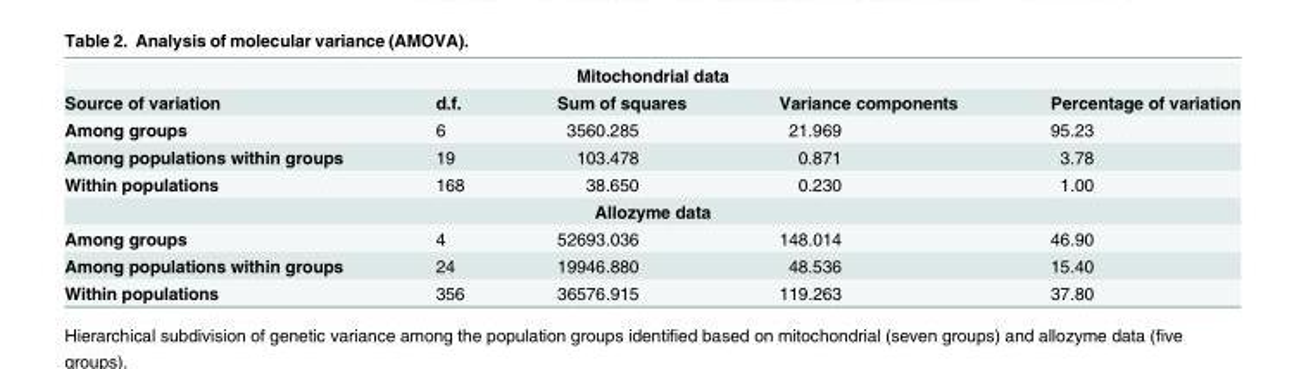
<table><tbody><tr><td colspan="5">Mitochondrial data</td></tr><tr><td>Source of variation</td><td>d.f.</td><td>Sum of squares</td><td>Variance components</td><td>Percentage of variation</td></tr><tr><td>Among groups</td><td>6</td><td>3560.285</td><td>21.969</td><td>95.23</td></tr><tr><td>Among populations within groups</td><td>19</td><td>103.478</td><td>0.871</td><td>3.78</td></tr><tr><td>Within populations</td><td>168</td><td>38.650</td><td>0.230</td><td>1.00</td></tr><tr><td colspan="5">Allozyme data</td></tr><tr><td>Among groups</td><td>4</td><td>52693.036</td><td>148.014</td><td>46.90</td></tr><tr><td>Among populations within groups</td><td>24</td><td>19946.880</td><td>48.536</td><td>15.40</td></tr><tr><td>Within populations</td><td>356</td><td>36576.915</td><td>119.263</td><td>37.80</td></tr></tbody></table>